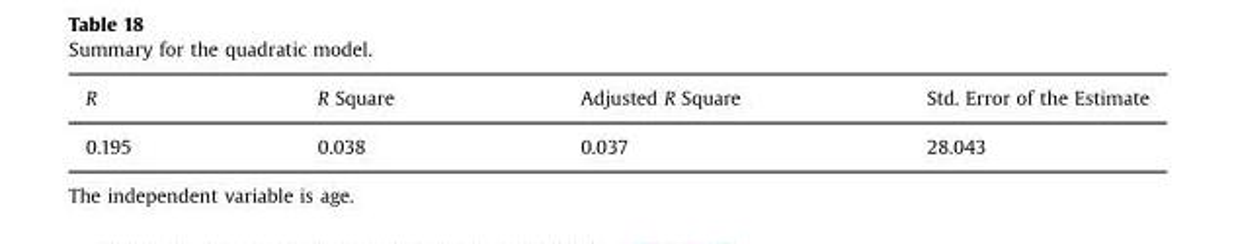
<table><thead><tr><td>R</td><td>R Square</td><td>Adjusted R Square</td><td>Std. Error of the Estimate</td></tr></thead><tbody><tr><td>0.195</td><td>0.038</td><td>0.037</td><td>28.043</td></tr></tbody></table>